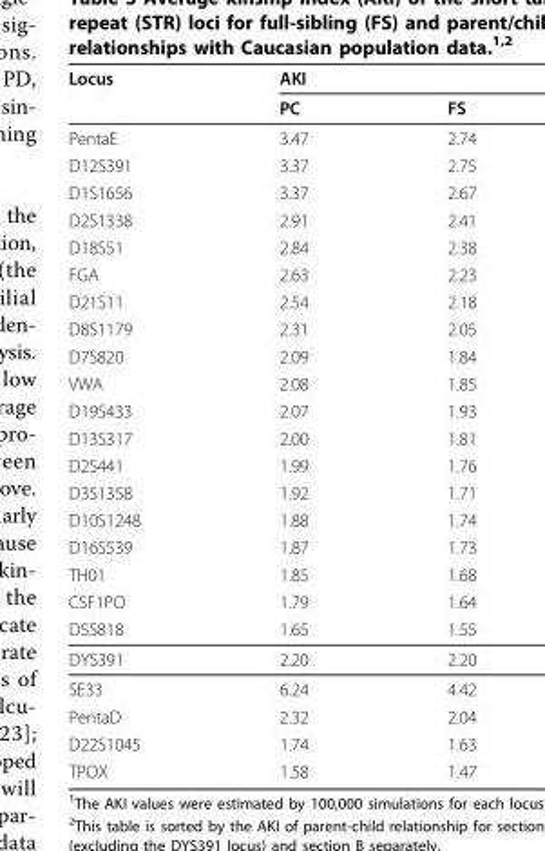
<table><thead><tr><td rowspan="2">Locus</td><td colspan="2">AKI</td></tr><tr><td>PC</td><td>FS</td></tr></thead><tbody><tr><td>PentaE</td><td>3.47</td><td>2.74</td></tr><tr><td>D12S391</td><td>3.37</td><td>2.75</td></tr><tr><td>D1S1656</td><td>3.37</td><td>2.67</td></tr><tr><td>D2S1338</td><td>2.91</td><td>2.41</td></tr><tr><td>D18S51</td><td>2.84</td><td>2.38</td></tr><tr><td>FGA</td><td>2.63</td><td>2.23</td></tr><tr><td>D21S11</td><td>2.54</td><td>2.18</td></tr><tr><td>D8S1179</td><td>2.31</td><td>2.05</td></tr><tr><td>D7S820</td><td>2.09</td><td>1.84</td></tr><tr><td>VWA</td><td>2.08</td><td>1.85</td></tr><tr><td>D19S433</td><td>2.07</td><td>1.93</td></tr><tr><td>D13S317</td><td>2.00</td><td>1.81</td></tr><tr><td>D2S441</td><td>1.99</td><td>1.76</td></tr><tr><td>D3S1358</td><td>1.92</td><td>1.71</td></tr><tr><td>D10S1248</td><td>1.88</td><td>1.74</td></tr><tr><td>D16S539</td><td>1.87</td><td>1.73</td></tr><tr><td>TH01</td><td>1.85</td><td>1.68</td></tr><tr><td>CSF1PO</td><td>1.79</td><td>1.64</td></tr><tr><td>D5S818</td><td>1.65</td><td>1.55</td></tr><tr><td>DYS391</td><td>2.20</td><td>2.20</td></tr><tr><td>SE33</td><td>6.24</td><td>4.42</td></tr><tr><td>PentaD</td><td>2.32</td><td>2.04</td></tr><tr><td>D22S1045</td><td>1.74</td><td>1.63</td></tr><tr><td>TPOX</td><td>1.58</td><td>1.47</td></tr></tbody></table>